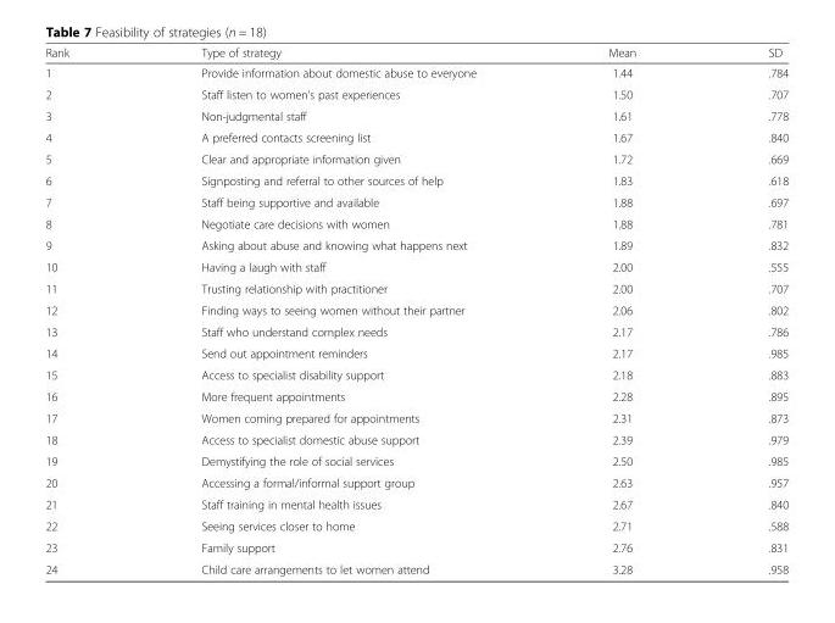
<table><thead><tr><td>Rank</td><td>Type of strategy</td><td>Mean</td><td>SD</td></tr></thead><tbody><tr><td>1</td><td>Provide information about domestic abuse to everyone</td><td>1.44</td><td>.784</td></tr><tr><td>2</td><td>Staff listen to women’s past experiences</td><td>1.50</td><td>.707</td></tr><tr><td>3</td><td>Non-judgmental staff</td><td>1.61</td><td>.778</td></tr><tr><td>4</td><td>A preferred contacts screening list</td><td>1.67</td><td>.840</td></tr><tr><td>5</td><td>Clear and appropriate information given</td><td>1.72</td><td>.669</td></tr><tr><td>6</td><td>Signposting and referral to other sources of help</td><td>1.83</td><td>.618</td></tr><tr><td>7</td><td>Staff being supportive and available</td><td>1.88</td><td>.697</td></tr><tr><td>8</td><td>Negotiate care decisions with women</td><td>1.88</td><td>.781</td></tr><tr><td>9</td><td>Asking about abuse and knowing what happens next</td><td>1.89</td><td>.832</td></tr><tr><td>10</td><td>Having a laugh with staff</td><td>2.00</td><td>.555</td></tr><tr><td>11</td><td>Trusting relationship with practitioner</td><td>2.00</td><td>.707</td></tr><tr><td>12</td><td>Finding ways to seeing women without their partner</td><td>2.06</td><td>.802</td></tr><tr><td>13</td><td>Staff who understand complex needs</td><td>2.17</td><td>.786</td></tr><tr><td>14</td><td>Send out appointment reminders</td><td>2.17</td><td>.985</td></tr><tr><td>15</td><td>Access to specialist disability support</td><td>2.18</td><td>.883</td></tr><tr><td>16</td><td>More frequent appointments</td><td>2.28</td><td>.895</td></tr><tr><td>17</td><td>Women coming prepared for appointments</td><td>2.31</td><td>.873</td></tr><tr><td>18</td><td>Access to specialist domestic abuse support</td><td>2.39</td><td>.979</td></tr><tr><td>19</td><td>Demystifying the role of social services</td><td>2.50</td><td>.985</td></tr><tr><td>20</td><td>Accessing a formal/informal support group</td><td>2.63</td><td>.957</td></tr><tr><td>21</td><td>Staff training in mental health issues</td><td>2.67</td><td>.840</td></tr><tr><td>22</td><td>Seeing services closer to home</td><td>2.71</td><td>.588</td></tr><tr><td>23</td><td>Family support</td><td>2.76</td><td>.831</td></tr><tr><td>24</td><td>Child care arrangements to let women attend</td><td>3.28</td><td>.958</td></tr></tbody></table>